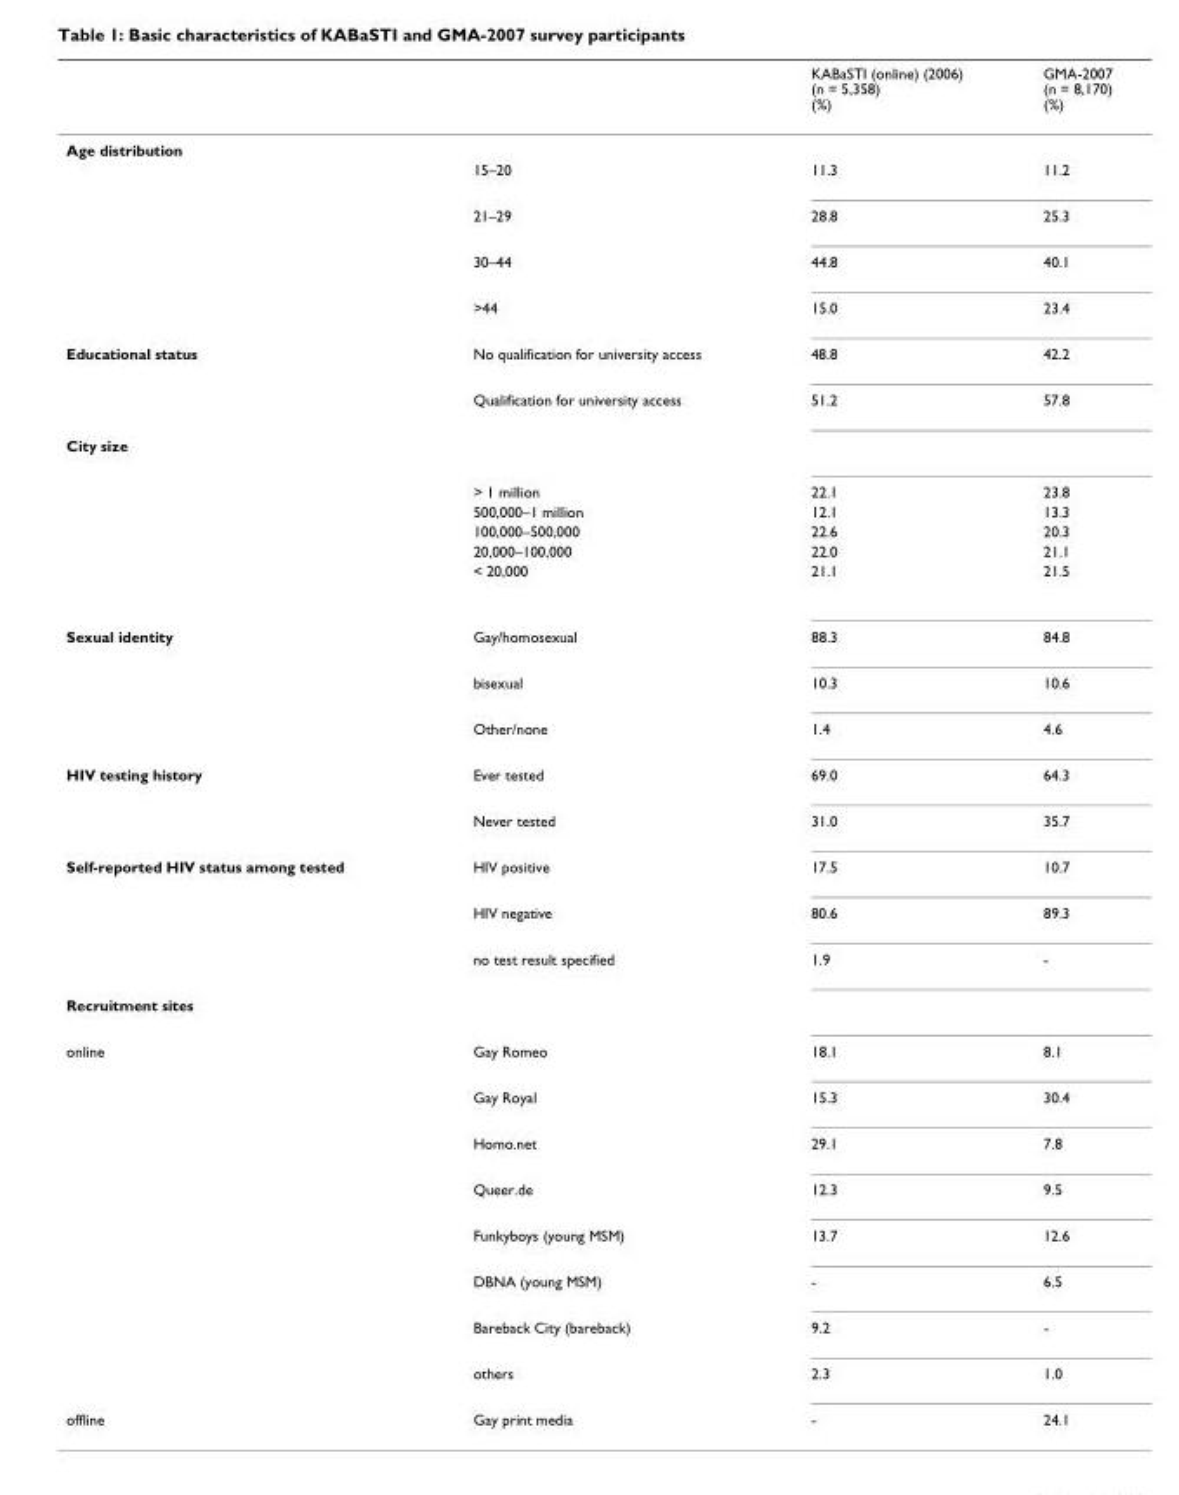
<table><thead><tr><td></td><td></td><td>KABaSTI (online) (2006) (n = 5,358) (%)</td><td>GMA-2007 (n = 8,170) (%)</td></tr></thead><tbody><tr><td colspan="4">Age distribution</td></tr><tr><td></td><td>15–20</td><td>11.3</td><td>11.2</td></tr><tr><td></td><td>21–29</td><td>28.8</td><td>25.3</td></tr><tr><td></td><td>30–44</td><td>44.8</td><td>40.1</td></tr><tr><td></td><td>&gt;44</td><td>15.0</td><td>23.4</td></tr><tr><td rowspan="2">Educational status</td><td>No qualification for university access</td><td>48.8</td><td>42.2</td></tr><tr><td>Qualification for university access</td><td>51.2</td><td>57.8</td></tr><tr><td colspan="4">City size</td></tr><tr><td></td><td>&gt; 1 million</td><td>22.1</td><td>23.8</td></tr><tr><td></td><td>500,000–1 million</td><td>12.1</td><td>13.3</td></tr><tr><td></td><td>100,000–500,000</td><td>22.6</td><td>20.3</td></tr><tr><td></td><td>20,000–100,000</td><td>22.0</td><td>21.1</td></tr><tr><td></td><td>&lt; 20,000</td><td>21.1</td><td>21.5</td></tr><tr><td rowspan="3">Sexual identity</td><td>Gay/homosexual</td><td>88.3</td><td>84.8</td></tr><tr><td>bisexual</td><td>10.3</td><td>10.6</td></tr><tr><td>Other/none</td><td>1.4</td><td>4.6</td></tr><tr><td rowspan="2">HIV testing history</td><td>Ever tested</td><td>69.0</td><td>64.3</td></tr><tr><td>Never tested</td><td>31.0</td><td>35.7</td></tr><tr><td rowspan="3">Self-reported HIV status among tested</td><td>HIV positive</td><td>17.5</td><td>10.7</td></tr><tr><td>HIV negative</td><td>80.6</td><td>89.3</td></tr><tr><td>no test result specified</td><td>1.9</td><td>-</td></tr><tr><td colspan="4">Recruitment sites</td></tr><tr><td rowspan="8">online</td><td>Gay Romeo</td><td>18.1</td><td>8.1</td></tr><tr><td>Gay Royal</td><td>15.3</td><td>30.4</td></tr><tr><td>Homo.net</td><td>29.1</td><td>7.8</td></tr><tr><td>Queer.de</td><td>12.3</td><td>9.5</td></tr><tr><td>Funkyboys (young MSM)</td><td>13.7</td><td>12.6</td></tr><tr><td>DBNA (young MSM)</td><td>-</td><td>6.5</td></tr><tr><td>Bareback City (bareback)</td><td>9.2</td><td>-</td></tr><tr><td>others</td><td>2.3</td><td>1.0</td></tr><tr><td>offline</td><td>Gay print media</td><td>-</td><td>24.1</td></tr></tbody></table>